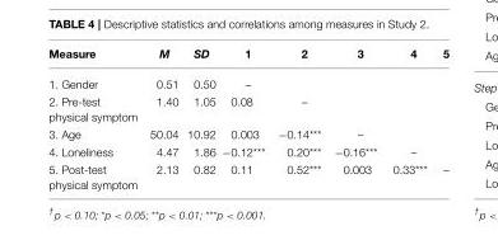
<table><thead><tr><td>Measure</td><td>M</td><td>SD</td><td>1</td><td>2</td><td>3</td><td>4</td><td>5</td></tr></thead><tbody><tr><td>1. Gender</td><td>0.51</td><td>0.50</td><td>–</td><td></td><td></td><td></td><td></td></tr><tr><td>2. Pre-test physical symptom</td><td>1.40</td><td>1.05</td><td>0.08</td><td>–</td><td></td><td></td><td></td></tr><tr><td>3. Age</td><td>50.04</td><td>10.92</td><td>0.003</td><td>−0.14***</td><td>–</td><td></td><td></td></tr><tr><td>4. Loneliness</td><td>4.47</td><td>1.86</td><td>−0.12***</td><td>0.20***</td><td>−0.16***</td><td>–</td><td></td></tr><tr><td>5. Post-test physical symptom</td><td>2.13</td><td>0.82</td><td>0.11</td><td>0.52***</td><td>0.003</td><td>0.33***</td><td>–</td></tr></tbody></table>